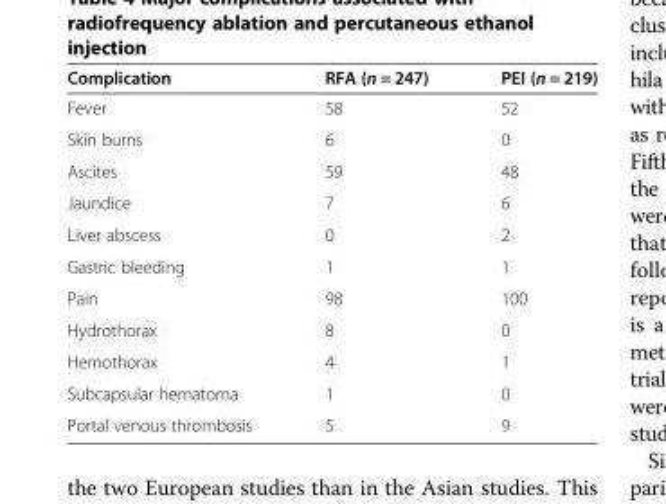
<table><thead><tr><td>Complication</td><td>RFA (n = 247)</td><td>PEI (n = 219)</td></tr></thead><tbody><tr><td>Fever</td><td>58</td><td>52</td></tr><tr><td>Skin burns</td><td>6</td><td>0</td></tr><tr><td>Ascites</td><td>59</td><td>48</td></tr><tr><td>Jaundice</td><td>7</td><td>6</td></tr><tr><td>Liver abscess</td><td>0</td><td>2</td></tr><tr><td>Gastric bleeding</td><td>1</td><td>1</td></tr><tr><td>Pain</td><td>98</td><td>100</td></tr><tr><td>Hydrothorax</td><td>8</td><td>0</td></tr><tr><td>Hemothorax</td><td>4</td><td>1</td></tr><tr><td>Subcapsular hematoma</td><td>1</td><td>0</td></tr><tr><td>Portal venous thrombosis</td><td>5</td><td>9</td></tr></tbody></table>